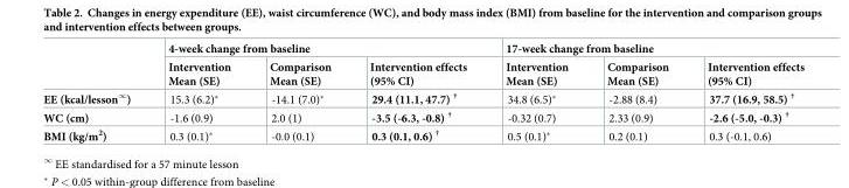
<table><thead><tr><td rowspan="2"></td><td colspan="3">4-week change from baseline</td><td colspan="3">17-week change from baseline</td></tr><tr><td>Intervention Mean (SE)</td><td>Comparison Mean (SE)</td><td>Intervention effects (95% CI)</td><td>Intervention Mean (SE)</td><td>Comparison Mean (SE)</td><td>Intervention effects (95% CI)</td></tr></thead><tbody><tr><td>EE (kcal/lesson<sup>∞</sup>)</td><td>15.3 (6.2)*</td><td>-14.1 (7.0)*</td><td>29.4 (11.1, 47.7) <sup>†</sup></td><td>34.8 (6.5)*</td><td>-2.88 (8.4)</td><td>37.7 (16.9, 58.5) <sup>†</sup></td></tr><tr><td>WC (cm)</td><td>-1.6 (0.9)</td><td>2.0 (1)</td><td>-3.5 (-6.3, -0.8) <sup>†</sup></td><td>-0.32 (0.7)</td><td>2.33 (0.9)</td><td>-2.6 (-5.0, -0.3) <sup>†</sup></td></tr><tr><td>BMI (kg/m<sup>2</sup>)</td><td>0.3 (0.1)*</td><td>-0.0 (0.1)</td><td>0.3 (0.1, 0.6) <sup>†</sup></td><td>0.5 (0.1)*</td><td>0.2 (0.1)</td><td>0.3 (-0.1, 0.6)</td></tr></tbody></table>